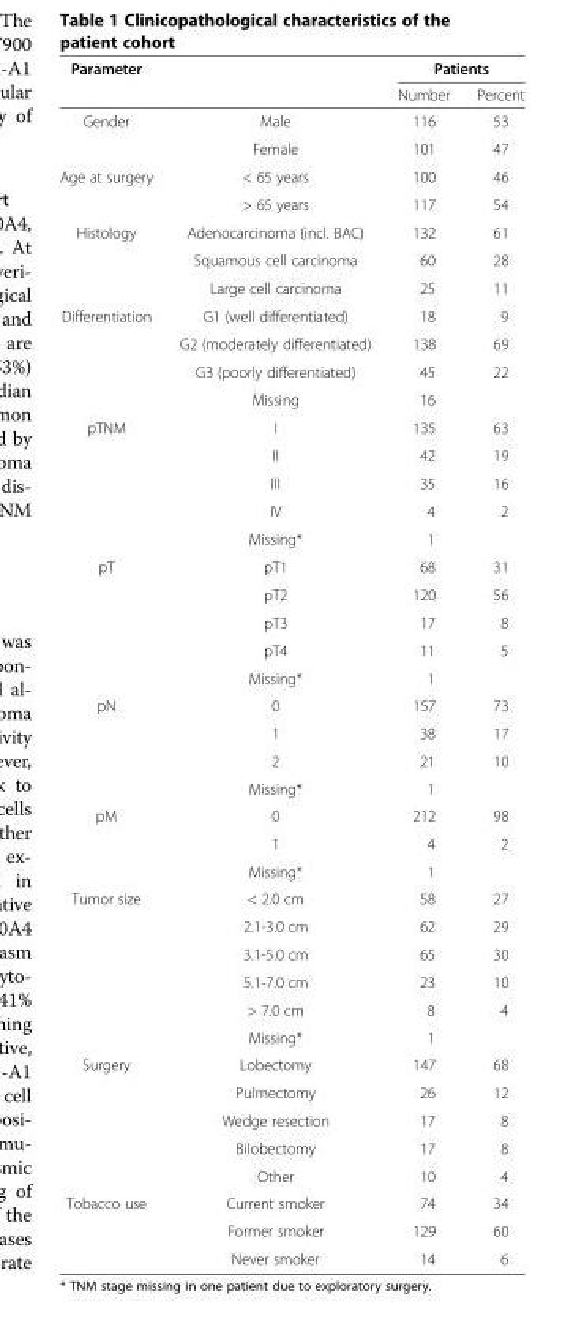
<table><thead><tr><td rowspan="2">Parameter</td><td rowspan="2"></td><td colspan="2">Patients</td></tr><tr><td>Number</td><td>Percent</td></tr></thead><tbody><tr><td rowspan="2">Gender</td><td>Male</td><td>116</td><td>53</td></tr><tr><td>Female</td><td>101</td><td>47</td></tr><tr><td rowspan="2">Age at surgery</td><td>&lt; 65 years</td><td>100</td><td>46</td></tr><tr><td>&gt; 65 years</td><td>117</td><td>54</td></tr><tr><td rowspan="3">Histology</td><td>Adenocarcinoma (incl. BAC)</td><td>132</td><td>61</td></tr><tr><td>Squamous cell carcinoma</td><td>60</td><td>28</td></tr><tr><td>Large cell carcinoma</td><td>25</td><td>11</td></tr><tr><td rowspan="4">Differentiation</td><td>G1 (well differentiated)</td><td>18</td><td>9</td></tr><tr><td>G2 (moderately differentiated)</td><td>138</td><td>69</td></tr><tr><td>G3 (poorly differentiated)</td><td>45</td><td>22</td></tr><tr><td>Missing</td><td>16</td><td></td></tr><tr><td rowspan="5">pTNM</td><td>I</td><td>135</td><td>63</td></tr><tr><td>II</td><td>42</td><td>19</td></tr><tr><td>III</td><td>35</td><td>16</td></tr><tr><td>IV</td><td>4</td><td>2</td></tr><tr><td>Missing*</td><td>1</td><td></td></tr><tr><td rowspan="5">pT</td><td>pT1</td><td>68</td><td>31</td></tr><tr><td>pT2</td><td>120</td><td>56</td></tr><tr><td>pT3</td><td>17</td><td>8</td></tr><tr><td>pT4</td><td>11</td><td>5</td></tr><tr><td>Missing*</td><td>1</td><td></td></tr><tr><td rowspan="4">pN</td><td>0</td><td>157</td><td>73</td></tr><tr><td>1</td><td>38</td><td>17</td></tr><tr><td>2</td><td>21</td><td>10</td></tr><tr><td>Missing*</td><td>1</td><td></td></tr><tr><td rowspan="3">pM</td><td>0</td><td>212</td><td>98</td></tr><tr><td>1</td><td>4</td><td>2</td></tr><tr><td>Missing*</td><td>1</td><td></td></tr><tr><td rowspan="6">Tumor size</td><td>&lt; 2.0 cm</td><td>58</td><td>27</td></tr><tr><td>2.1-3.0 cm</td><td>62</td><td>29</td></tr><tr><td>3.1-5.0 cm</td><td>65</td><td>30</td></tr><tr><td>5.1-7.0 cm</td><td>23</td><td>10</td></tr><tr><td>&gt; 7.0 cm</td><td>8</td><td>4</td></tr><tr><td>Missing*</td><td>1</td><td></td></tr><tr><td rowspan="5">Surgery</td><td>Lobectomy</td><td>147</td><td>68</td></tr><tr><td>Pulmectomy</td><td>26</td><td>12</td></tr><tr><td>Wedge resection</td><td>17</td><td>8</td></tr><tr><td>Bilobectomy</td><td>17</td><td>8</td></tr><tr><td>Other</td><td>10</td><td>4</td></tr><tr><td rowspan="3">Tobacco use</td><td>Current smoker</td><td>74</td><td>34</td></tr><tr><td>Former smoker</td><td>129</td><td>60</td></tr><tr><td>Never smoker</td><td>14</td><td>6</td></tr></tbody></table>